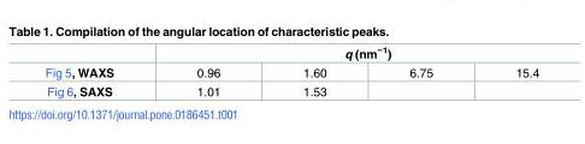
<table><thead><tr><td rowspan="2">Fig 5, WAXS</td><td colspan="4">q (nm<sup>−1</sup>)</td></tr><tr><td>0.96</td><td>1.60</td><td>6.75</td><td>15.4</td></tr></thead><tbody><tr><td>Fig 6, SAXS</td><td>1.01</td><td>1.53</td><td></td><td></td></tr></tbody></table>